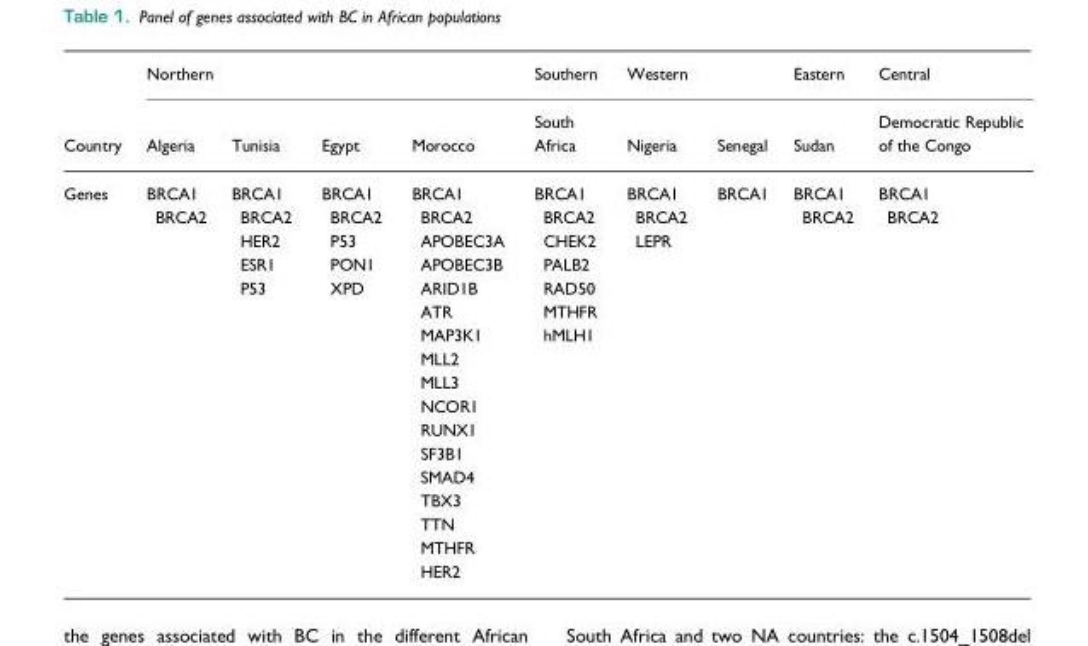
<table><thead><tr><td rowspan="2">Country</td><td colspan="4">Northern</td><td rowspan="2">Southern South Africa</td><td colspan="2">Western</td><td rowspan="2">Eastern Sudan</td><td rowspan="2">Central Democratic Republic of the Congo</td></tr><tr><td>Algeria</td><td>Tunisia</td><td>Egypt</td><td>Morocco</td><td>Nigeria</td><td>Senegal</td></tr></thead><tbody><tr><td>Genes</td><td>BRCA1 BRCA2</td><td>BRCA1 BRCA2 HER2 ESR1 P53</td><td>BRCA1 BRCA2 P53 PON1 XPD</td><td>BRCA1 BRCA2 APOBEC3A APOBEC3B ARID1B ATR MAP3K1 MLL2 MLL3 NCOR1 RUNX1 SF3B1 SMAD4 TBX3 TTN MTHFR HER2</td><td>BRCA1 BRCA2 CHEK2 PALB2 RAD50 MTHFR hMLH1</td><td>BRCA1 BRCA2 LEPR</td><td>BRCA1</td><td>BRCA1 BRCA2</td><td>BRCA1 BRCA2</td></tr></tbody></table>